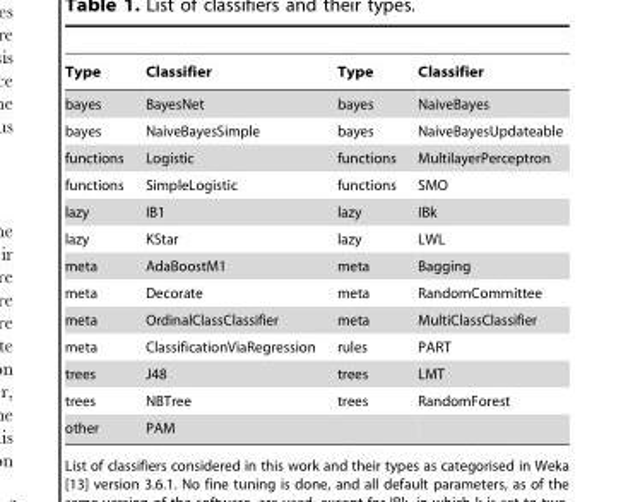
<table><thead><tr><td>Type</td><td>Classifier</td><td>Type</td><td>Classifier</td></tr></thead><tbody><tr><td>bayes</td><td>BayesNet</td><td>bayes</td><td>NaiveBayes</td></tr><tr><td>bayes</td><td>NaiveBayesSimple</td><td>bayes</td><td>NaiveBayesUpdateable</td></tr><tr><td>functions</td><td>Logistic</td><td>functions</td><td>MultilayerPerceptron</td></tr><tr><td>functions</td><td>SimpleLogistic</td><td>functions</td><td>SMO</td></tr><tr><td>lazy</td><td>IB1</td><td>lazy</td><td>IBk</td></tr><tr><td>lazy</td><td>KStar</td><td>lazy</td><td>LWL</td></tr><tr><td>meta</td><td>AdaBoostM1</td><td>meta</td><td>Bagging</td></tr><tr><td>meta</td><td>Decorate</td><td>meta</td><td>RandomCommittee</td></tr><tr><td>meta</td><td>OrdinalClassClassifier</td><td>meta</td><td>MultiClassClassifier</td></tr><tr><td>meta</td><td>ClassificationViaRegression</td><td>rules</td><td>PART</td></tr><tr><td>trees</td><td>J48</td><td>trees</td><td>LMT</td></tr><tr><td>trees</td><td>NBTree</td><td>trees</td><td>RandomForest</td></tr><tr><td>other</td><td>PAM</td><td></td><td></td></tr></tbody></table>